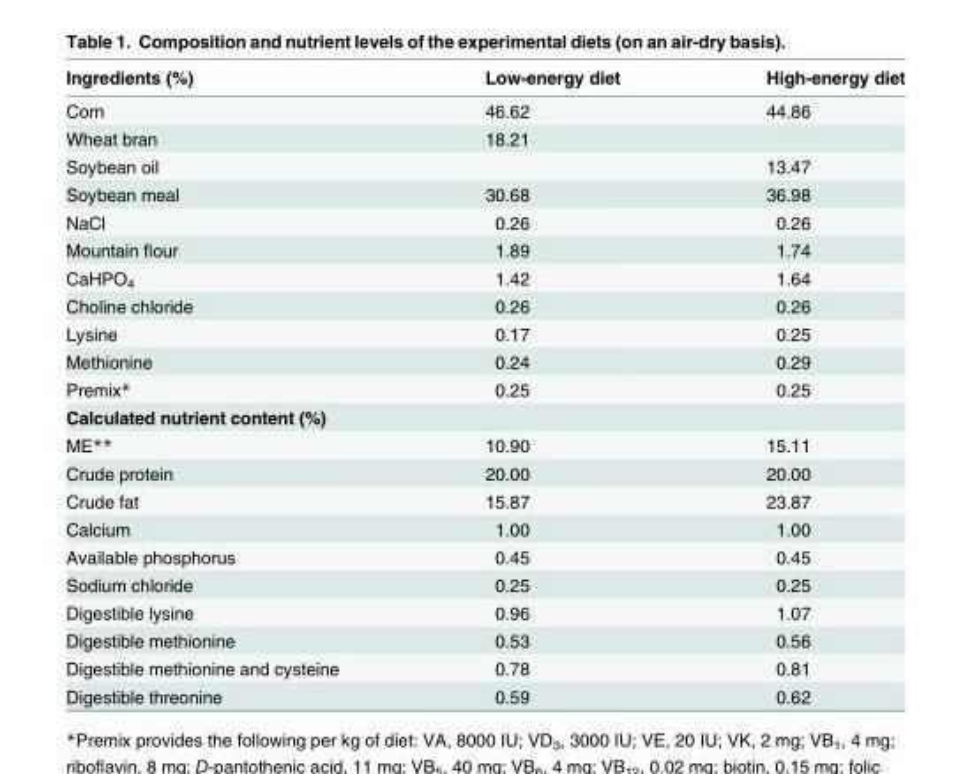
<table><thead><tr><td>Ingredients (%)</td><td>Low-energy diet</td><td>High-energy diet</td></tr></thead><tbody><tr><td>Corn</td><td>46.62</td><td>44.86</td></tr><tr><td>Wheat bran</td><td>18.21</td><td></td></tr><tr><td>Soybean oil</td><td></td><td>13.47</td></tr><tr><td>Soybean meal</td><td>30.68</td><td>36.98</td></tr><tr><td>NaCl</td><td>0.26</td><td>0.26</td></tr><tr><td>Mountain flour</td><td>1.89</td><td>1.74</td></tr><tr><td>CaHPO<sub>4</sub></td><td>1.42</td><td>1.64</td></tr><tr><td>Choline chloride</td><td>0.26</td><td>0.26</td></tr><tr><td>Lysine</td><td>0.17</td><td>0.25</td></tr><tr><td>Methionine</td><td>0.24</td><td>0.29</td></tr><tr><td>Premix*</td><td>0.25</td><td>0.25</td></tr><tr><td colspan="3">Calculated nutrient content (%)</td></tr><tr><td>ME**</td><td>10.90</td><td>15.11</td></tr><tr><td>Crude protein</td><td>20.00</td><td>20.00</td></tr><tr><td>Crude fat</td><td>15.87</td><td>23.87</td></tr><tr><td>Calcium</td><td>1.00</td><td>1.00</td></tr><tr><td>Available phosphorus</td><td>0.45</td><td>0.45</td></tr><tr><td>Sodium chloride</td><td>0.25</td><td>0.25</td></tr><tr><td>Digestible lysine</td><td>0.96</td><td>1.07</td></tr><tr><td>Digestible methionine</td><td>0.53</td><td>0.56</td></tr><tr><td>Digestible methionine and cysteine</td><td>0.78</td><td>0.81</td></tr><tr><td>Digestible threonine</td><td>0.59</td><td>0.62</td></tr></tbody></table>